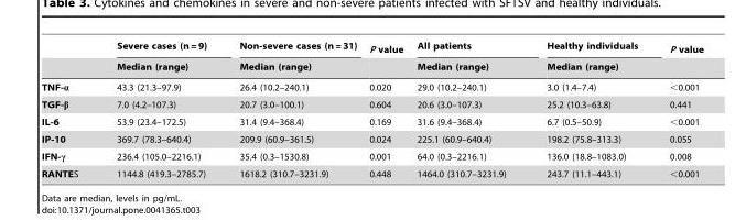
<table><thead><tr><td rowspan="2"></td><td rowspan="2">Severe cases (n = 9) Median (range)</td><td rowspan="2">Non-severe cases (n = 31) Median (range)</td><td rowspan="2">P value</td><td rowspan="2">All patients Median (range)</td><td rowspan="2">Healthy individuals Median (range)</td><td rowspan="2">P value</td></tr><tr></tr></thead><tbody><tr><td>TNF-α</td><td>43.3 (21.3–97.9)</td><td>26.4 (10.2–240.1)</td><td>0.020</td><td>29.0 (10.2–240.1)</td><td>3.0 (1.4–7.4)</td><td>&lt;0.001</td></tr><tr><td>TGF-β</td><td>7.0 (4.2–107.3)</td><td>20.7 (3.0–100.1)</td><td>0.604</td><td>20.6 (3.0–107.3)</td><td>25.2 (10.3–63.8)</td><td>0.441</td></tr><tr><td>IL-6</td><td>53.9 (23.4–172.5)</td><td>31.4 (9.4–368.4)</td><td>0.169</td><td>31.6 (9.4–368.4)</td><td>6.7 (0.5–50.9)</td><td>&lt;0.001</td></tr><tr><td>IP-10</td><td>369.7 (78.3–640.4)</td><td>209.9 (60.9–361.5)</td><td>0.024</td><td>225.1 (60.9–640.4)</td><td>198.2 (75.8–313.3)</td><td>0.055</td></tr><tr><td>IFN-γ</td><td>236.4 (105.0–2216.1)</td><td>35.4 (0.3–1530.8)</td><td>0.001</td><td>64.0 (0.3–2216.1)</td><td>136.0 (18.8–1083.0)</td><td>0.008</td></tr><tr><td>RANTES</td><td>1144.8 (419.3–2785.7)</td><td>1618.2 (310.7–3231.9)</td><td>0.448</td><td>1464.0 (310.7–3231.9)</td><td>243.7 (11.1–443.1)</td><td>&lt;0.001</td></tr></tbody></table>